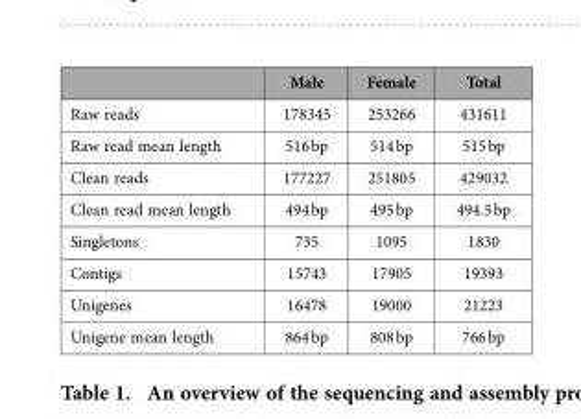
<table><thead><tr><td></td><td>Male</td><td>Female</td><td>Total</td></tr></thead><tbody><tr><td>Raw reads</td><td>178345</td><td>253266</td><td>431611</td></tr><tr><td>Raw read mean length</td><td>516 bp</td><td>514 bp</td><td>515 bp</td></tr><tr><td>Clean reads</td><td>177227</td><td>251805</td><td>429032</td></tr><tr><td>Clean read mean length</td><td>494 bp</td><td>495 bp</td><td>494.5 bp</td></tr><tr><td>Singletons</td><td>735</td><td>1095</td><td>1830</td></tr><tr><td>Contigs</td><td>15743</td><td>17905</td><td>19393</td></tr><tr><td>Unigenes</td><td>16478</td><td>19000</td><td>21223</td></tr><tr><td>Unigene mean length</td><td>864 bp</td><td>808 bp</td><td>766 bp</td></tr></tbody></table>